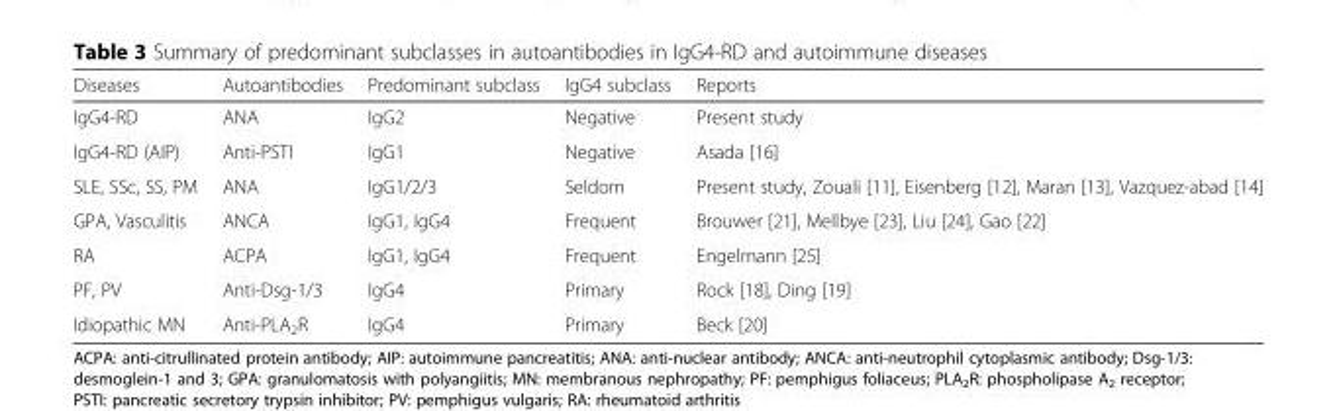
<table><thead><tr><td>Diseases</td><td>Autoantibodies</td><td>Predominant subclass</td><td>IgG4 subclass</td><td>Reports</td></tr></thead><tbody><tr><td>IgG4-RD</td><td>ANA</td><td>IgG2</td><td>Negative</td><td>Present study</td></tr><tr><td>IgG4-RD (AIP)</td><td>Anti-PSTI</td><td>IgG1</td><td>Negative</td><td>Asada [16]</td></tr><tr><td>SLE, SSc, SS, PM</td><td>ANA</td><td>IgG1/2/3</td><td>Seldom</td><td>Present study, Zouali [11], Eisenberg [12], Maran [13], Vazquez-abad [14]</td></tr><tr><td>GPA, Vasculitis</td><td>ANCA</td><td>IgG1, IgG4</td><td>Frequent</td><td>Brouwer [21], Mellbye [23], Liu [24], Gao [22]</td></tr><tr><td>RA</td><td>ACPA</td><td>IgG1, IgG4</td><td>Frequent</td><td>Engelmann [25]</td></tr><tr><td>PF, PV</td><td>Anti-Dsg-1/3</td><td>IgG4</td><td>Primary</td><td>Rock [18], Ding [19]</td></tr><tr><td>Idiopathic MN</td><td>Anti-PLA<sub>2</sub>R</td><td>IgG4</td><td>Primary</td><td>Beck [20]</td></tr></tbody></table>